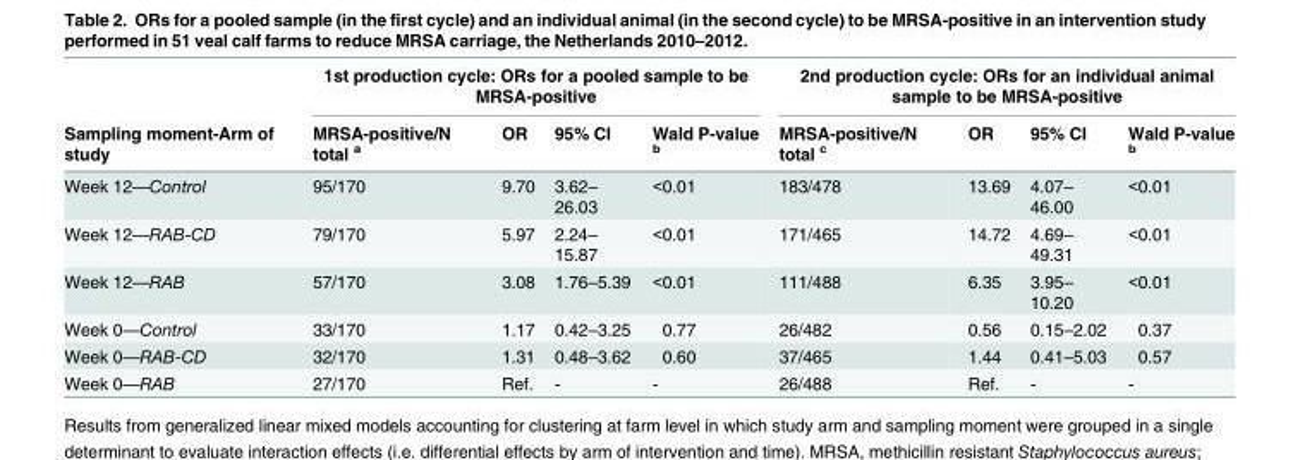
<table><thead><tr><td rowspan="2">Sampling moment-Arm of study</td><td colspan="4">1st production cycle: ORs for a pooled sample to be MRSA-positive</td><td colspan="4">2nd production cycle: ORs for an individual animal sample to be MRSA-positive</td></tr><tr><td>MRSA-positive/N total <sup>a</sup></td><td>OR</td><td>95% CI</td><td>Wald P-value <sup>b</sup></td><td>MRSA-positive/N total <sup>c</sup></td><td>OR</td><td>95% CI</td><td>Wald P-value <sup>b</sup></td></tr></thead><tbody><tr><td>Week 12—Control</td><td>95/170</td><td>9.70</td><td>3.62– 26.03</td><td>&lt;0.01</td><td>183/478</td><td>13.69</td><td>4.07– 46.00</td><td>&lt;0.01</td></tr><tr><td>Week 12—RAB-CD</td><td>79/170</td><td>5.97</td><td>2.24– 15.87</td><td>&lt;0.01</td><td>171/465</td><td>14.72</td><td>4.69– 49.31</td><td>&lt;0.01</td></tr><tr><td>Week 12—RAB</td><td>57/170</td><td>3.08</td><td>1.76–5.39</td><td>&lt;0.01</td><td>111/488</td><td>6.35</td><td>3.95– 10.20</td><td>&lt;0.01</td></tr><tr><td>Week 0—Control</td><td>33/170</td><td>1.17</td><td>0.42–3.25</td><td>0.77</td><td>26/482</td><td>0.56</td><td>0.15–2.02</td><td>0.37</td></tr><tr><td>Week 0—RAB-CD</td><td>32/170</td><td>1.31</td><td>0.48–3.62</td><td>0.60</td><td>37/465</td><td>1.44</td><td>0.41–5.03</td><td>0.57</td></tr><tr><td>Week 0—RAB</td><td>27/170</td><td>Ref.</td><td>-</td><td>-</td><td>26/488</td><td>Ref.</td><td>-</td><td>-</td></tr></tbody></table>